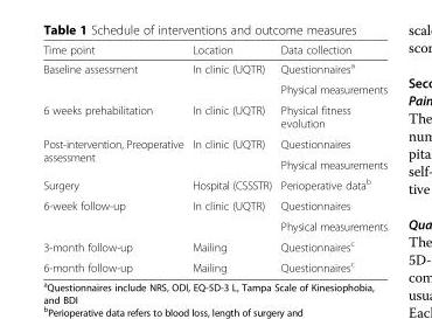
<table><thead><tr><td>Time point</td><td>Location</td><td>Data collection</td></tr></thead><tbody><tr><td rowspan="2">Baseline assessment</td><td rowspan="2">In clinic (UQTR)</td><td>Questionnaires<sup>a</sup></td></tr><tr><td>Physical measurements</td></tr><tr><td>6 weeks prehabilitation</td><td>In clinic (UQTR)</td><td>Physical fitness evolution</td></tr><tr><td rowspan="2">Post-intervention, Preoperative assessment</td><td rowspan="2">In clinic (UQTR)</td><td>Questionnaires</td></tr><tr><td>Physical measurements</td></tr><tr><td>Surgery</td><td>Hospital (CSSSTR)</td><td>Perioperative data<sup>b</sup></td></tr><tr><td rowspan="2">6-week follow-up</td><td rowspan="2">In clinic (UQTR)</td><td>Questionnaires</td></tr><tr><td>Physical measurements</td></tr><tr><td>3-month follow-up</td><td>Mailing</td><td>Questionnaires<sup>c</sup></td></tr><tr><td>6-month follow-up</td><td>Mailing</td><td>Questionnaires<sup>c</sup></td></tr></tbody></table>